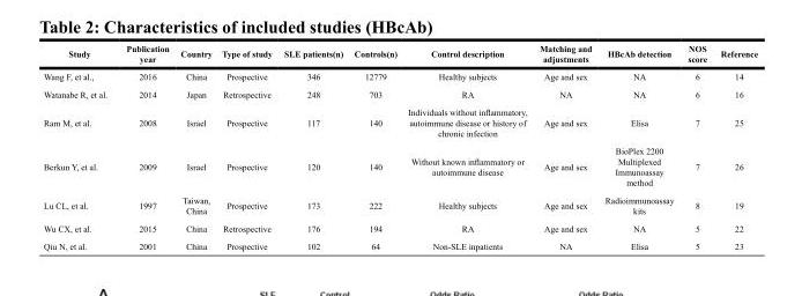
<table><thead><tr><td>Study</td><td>Publication year</td><td>Country</td><td>Type of study</td><td>SLE patients(n)</td><td>Controls(n)</td><td>Control description</td><td>Matching and adjustments</td><td>HBcAb detection</td><td>NOS score</td><td>Reference</td></tr></thead><tbody><tr><td>Wang F, et al.,</td><td>2016</td><td>China</td><td>Prospective</td><td>346</td><td>12779</td><td>Healthy subjects</td><td>Age and sex</td><td>NA</td><td>6</td><td>14</td></tr><tr><td>Watanabe R, et al.</td><td>2014</td><td>Japan</td><td>Retrospective</td><td>248</td><td>703</td><td>RA</td><td>NA</td><td>NA</td><td>6</td><td>16</td></tr><tr><td>Ram M, et al.</td><td>2008</td><td>Israel</td><td>Prospective</td><td>117</td><td>140</td><td>Individuals without inflammatory, autoimmune disease or history of chronic infection</td><td>Age and sex</td><td>Elisa</td><td>7</td><td>25</td></tr><tr><td>Berkun Y, et al.</td><td>2009</td><td>Israel</td><td>Prospective</td><td>120</td><td>140</td><td>Without known inflammatory or autoimmune disease</td><td>Age and sex</td><td>BioPlex 2200 Multiplexed Immunoassay method</td><td>7</td><td>26</td></tr><tr><td>Lu CL, et al.</td><td>1997</td><td>Taiwan, China</td><td>Prospective</td><td>173</td><td>222</td><td>Healthy subjects</td><td>Age and sex</td><td>Radioimmunoassay kits</td><td>8</td><td>19</td></tr><tr><td>Wu CX, et al.</td><td>2015</td><td>China</td><td>Retrospective</td><td>176</td><td>194</td><td>RA</td><td>Age and sex</td><td>NA</td><td>5</td><td>22</td></tr><tr><td>Qiu N, et al.</td><td>2001</td><td>China</td><td>Prospective</td><td>102</td><td>64</td><td>Non-SLE inpatients</td><td>NA</td><td>Elisa</td><td>5</td><td>23</td></tr></tbody></table>